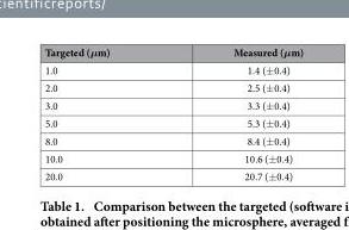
<table><thead><tr><td>Targeted (μm)</td><td>Measured (μm)</td></tr></thead><tbody><tr><td>1.0</td><td>1.4 (± 0.4)</td></tr><tr><td>2.0</td><td>2.5 (± 0.4)</td></tr><tr><td>3.0</td><td>3.3 (± 0.4)</td></tr><tr><td>5.0</td><td>5.3 (± 0.4)</td></tr><tr><td>8.0</td><td>8.4 (± 0.4)</td></tr><tr><td>10.0</td><td>10.6 (± 0.4)</td></tr><tr><td>20.0</td><td>20.7 (± 0.4)</td></tr></tbody></table>